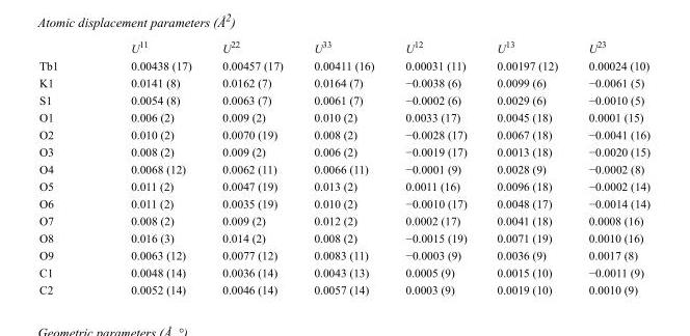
<table><thead><tr><td></td><td>U<sup>11</sup></td><td>U<sup>22</sup></td><td>U<sup>33</sup></td><td>U<sup>12</sup></td><td>U<sup>13</sup></td><td>U<sup>23</sup></td></tr></thead><tbody><tr><td>Tb1</td><td>0.00438 (17)</td><td>0.00457 (17)</td><td>0.00411 (16)</td><td>0.00031 (11)</td><td>0.00197 (12)</td><td>0.00024 (10)</td></tr><tr><td>K1</td><td>0.0141 (8)</td><td>0.0162 (7)</td><td>0.0164 (7)</td><td>−0.0038 (6)</td><td>0.0099 (6)</td><td>−0.0061 (5)</td></tr><tr><td>S1</td><td>0.0054 (8)</td><td>0.0063 (7)</td><td>0.0061 (7)</td><td>−0.0002 (6)</td><td>0.0029 (6)</td><td>−0.0010 (5)</td></tr><tr><td>O1</td><td>0.006 (2)</td><td>0.009 (2)</td><td>0.010 (2)</td><td>0.0033 (17)</td><td>0.0045 (18)</td><td>0.0001 (15)</td></tr><tr><td>O2</td><td>0.010 (2)</td><td>0.0070 (19)</td><td>0.008 (2)</td><td>−0.0028 (17)</td><td>0.0067 (18)</td><td>−0.0041 (16)</td></tr><tr><td>O3</td><td>0.008 (2)</td><td>0.009 (2)</td><td>0.006 (2)</td><td>−0.0019 (17)</td><td>0.0013 (18)</td><td>−0.0020 (15)</td></tr><tr><td>O4</td><td>0.0068 (12)</td><td>0.0062 (11)</td><td>0.0066 (11)</td><td>−0.0001 (9)</td><td>0.0028 (9)</td><td>−0.0002 (8)</td></tr><tr><td>O5</td><td>0.011 (2)</td><td>0.0047 (19)</td><td>0.013 (2)</td><td>0.0011 (16)</td><td>0.0096 (18)</td><td>−0.0002 (14)</td></tr><tr><td>O6</td><td>0.011 (2)</td><td>0.0035 (19)</td><td>0.010 (2)</td><td>−0.0010 (17)</td><td>0.0048 (17)</td><td>−0.0014 (14)</td></tr><tr><td>O7</td><td>0.008 (2)</td><td>0.009 (2)</td><td>0.012 (2)</td><td>0.0002 (17)</td><td>0.0041 (18)</td><td>0.0008 (16)</td></tr><tr><td>O8</td><td>0.016 (3)</td><td>0.014 (2)</td><td>0.008 (2)</td><td>−0.0015 (19)</td><td>0.0071 (19)</td><td>0.0010 (16)</td></tr><tr><td>O9</td><td>0.0063 (12)</td><td>0.0077 (12)</td><td>0.0083 (11)</td><td>−0.0003 (9)</td><td>0.0036 (9)</td><td>0.0017 (8)</td></tr><tr><td>C1</td><td>0.0048 (14)</td><td>0.0036 (14)</td><td>0.0043 (13)</td><td>0.0005 (9)</td><td>0.0015 (10)</td><td>−0.0011 (9)</td></tr><tr><td>C2</td><td>0.0052 (14)</td><td>0.0046 (14)</td><td>0.0057 (14)</td><td>0.0003 (9)</td><td>0.0019 (10)</td><td>0.0010 (9)</td></tr></tbody></table>